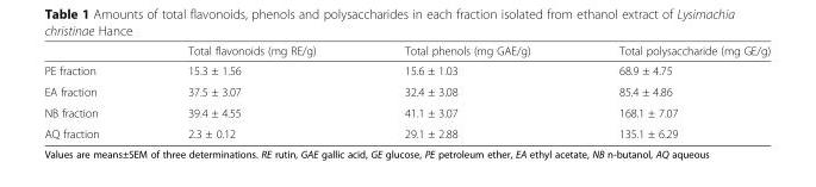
<table><thead><tr><td></td><td>Total flavonoids (mg RE/g)</td><td>Total phenols (mg GAE/g)</td><td>Total polysaccharide (mg GE/g)</td></tr></thead><tbody><tr><td>PE fraction</td><td>15.3 ± 1.56</td><td>15.6 ± 1.03</td><td>68.9 ± 4.75</td></tr><tr><td>EA fraction</td><td>37.5 ± 3.07</td><td>32.4 ± 3.08</td><td>85.4 ± 4.86</td></tr><tr><td>NB fraction</td><td>39.4 ± 4.55</td><td>41.1 ± 3.07</td><td>168.1 ± 7.07</td></tr><tr><td>AQ fraction</td><td>2.3 ± 0.12</td><td>29.1 ± 2.88</td><td>135.1 ± 6.29</td></tr></tbody></table>